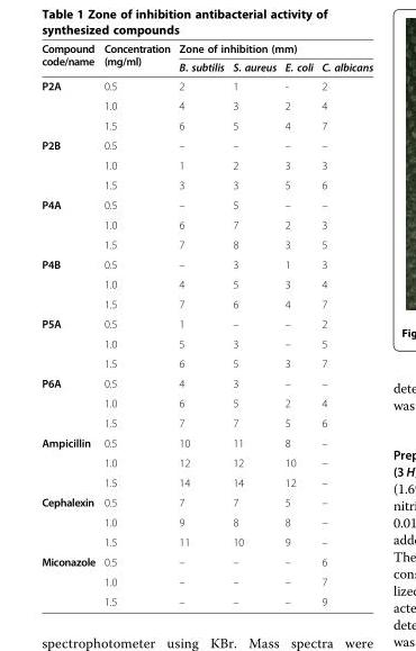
<table><thead><tr><td rowspan="2">Compound code/name</td><td rowspan="2">Concentration (mg/ml)</td><td colspan="4">Zone of inhibition (mm)</td></tr><tr><td>B. subtilis</td><td>S. aureus</td><td>E. coli</td><td>C. albicans</td></tr></thead><tbody><tr><td rowspan="3">P2A</td><td>0.5</td><td>2</td><td>1</td><td>-</td><td>2</td></tr><tr><td>1.0</td><td>4</td><td>3</td><td>2</td><td>4</td></tr><tr><td>1.5</td><td>6</td><td>5</td><td>4</td><td>7</td></tr><tr><td rowspan="3">P2B</td><td>0.5</td><td>–</td><td>–</td><td>–</td><td>–</td></tr><tr><td>1.0</td><td>1</td><td>2</td><td>3</td><td>3</td></tr><tr><td>1.5</td><td>3</td><td>3</td><td>5</td><td>6</td></tr><tr><td rowspan="3">P4A</td><td>0.5</td><td>–</td><td>5</td><td>–</td><td>–</td></tr><tr><td>1.0</td><td>6</td><td>7</td><td>2</td><td>3</td></tr><tr><td>1.5</td><td>7</td><td>8</td><td>3</td><td>5</td></tr><tr><td rowspan="3">P4B</td><td>0.5</td><td>–</td><td>3</td><td>1</td><td>3</td></tr><tr><td>1.0</td><td>4</td><td>5</td><td>3</td><td>4</td></tr><tr><td>1.5</td><td>7</td><td>6</td><td>4</td><td>7</td></tr><tr><td rowspan="3">P5A</td><td>0.5</td><td>1</td><td>–</td><td>–</td><td>2</td></tr><tr><td>1.0</td><td>5</td><td>3</td><td>–</td><td>5</td></tr><tr><td>1.5</td><td>6</td><td>5</td><td>3</td><td>7</td></tr><tr><td rowspan="3">P6A</td><td>0.5</td><td>4</td><td>3</td><td>–</td><td>–</td></tr><tr><td>1.0</td><td>6</td><td>5</td><td>2</td><td>4</td></tr><tr><td>1.5</td><td>7</td><td>7</td><td>5</td><td>6</td></tr><tr><td rowspan="3">Ampicillin</td><td>0.5</td><td>10</td><td>11</td><td>8</td><td>–</td></tr><tr><td>1.0</td><td>12</td><td>12</td><td>10</td><td>–</td></tr><tr><td>1.5</td><td>14</td><td>14</td><td>12</td><td>–</td></tr><tr><td rowspan="3">Cephalexin</td><td>0.5</td><td>7</td><td>7</td><td>5</td><td>–</td></tr><tr><td>1.0</td><td>9</td><td>8</td><td>8</td><td>–</td></tr><tr><td>1.5</td><td>11</td><td>10</td><td>9</td><td>–</td></tr><tr><td rowspan="3">Miconazole</td><td>0.5</td><td>–</td><td>–</td><td>–</td><td>6</td></tr><tr><td>1.0</td><td>–</td><td>–</td><td>–</td><td>7</td></tr><tr><td>1.5</td><td>–</td><td>–</td><td>–</td><td>9</td></tr></tbody></table>